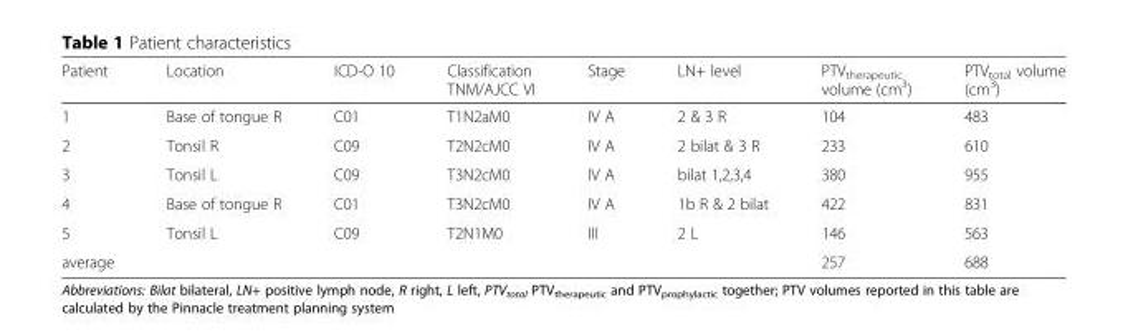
<table><thead><tr><td>Patient</td><td>Location</td><td>ICD-O 10</td><td>Classification TNM/AJCC VI</td><td>Stage</td><td>LN+ level</td><td>PTV<sub>therapeutic</sub> volume (cm<sup>3</sup>)</td><td>PTV<sub>total</sub> volume (cm<sup>3</sup>)</td></tr></thead><tbody><tr><td>1</td><td>Base of tongue R</td><td>C01</td><td>T1N2aM0</td><td>IV A</td><td>2 &amp; 3 R</td><td>104</td><td>483</td></tr><tr><td>2</td><td>Tonsil R</td><td>C09</td><td>T2N2cM0</td><td>IV A</td><td>2 bilat &amp; 3 R</td><td>233</td><td>610</td></tr><tr><td>3</td><td>Tonsil L</td><td>C09</td><td>T3N2cM0</td><td>IV A</td><td>bilat 1,2,3,4</td><td>380</td><td>955</td></tr><tr><td>4</td><td>Base of tongue R</td><td>C01</td><td>T3N2cM0</td><td>IV A</td><td>1b R &amp; 2 bilat</td><td>422</td><td>831</td></tr><tr><td>5</td><td>Tonsil L</td><td>C09</td><td>T2N1M0</td><td>III</td><td>2 L</td><td>146</td><td>563</td></tr><tr><td>average</td><td></td><td></td><td></td><td></td><td></td><td>257</td><td>688</td></tr></tbody></table>